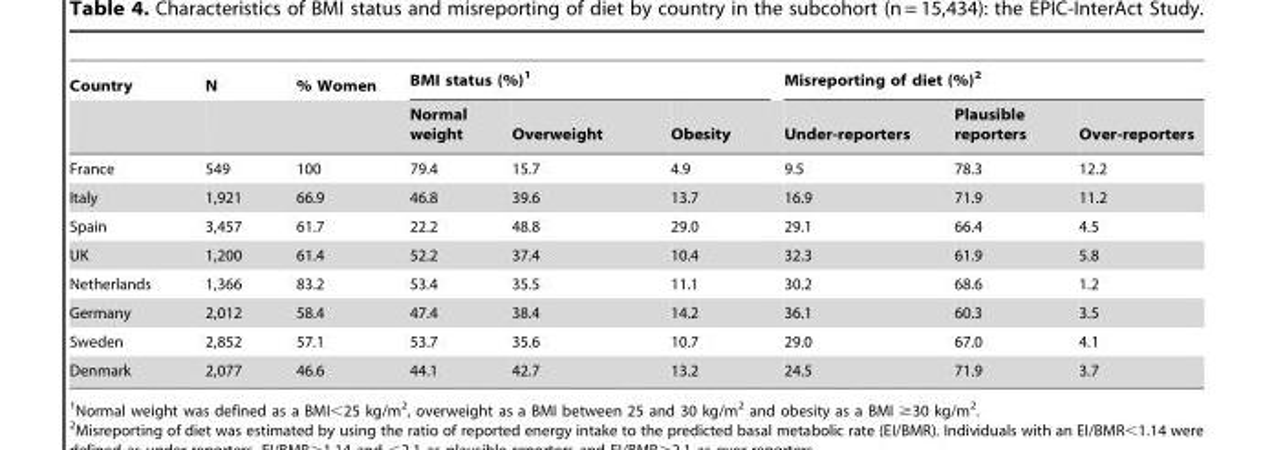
<table><thead><tr><td rowspan="2">Country</td><td rowspan="2">N</td><td rowspan="2">% Women</td><td colspan="3">BMI status (%)<sup>1</sup></td><td colspan="3">Misreporting of diet (%)<sup>2</sup></td></tr><tr><td>Normal weight</td><td>Overweight</td><td>Obesity</td><td>Under-reporters</td><td>Plausible reporters</td><td>Over-reporters</td></tr></thead><tbody><tr><td>France</td><td>549</td><td>100</td><td>79.4</td><td>15.7</td><td>4.9</td><td>9.5</td><td>78.3</td><td>12.2</td></tr><tr><td>Italy</td><td>1,921</td><td>66.9</td><td>46.8</td><td>39.6</td><td>13.7</td><td>16.9</td><td>71.9</td><td>11.2</td></tr><tr><td>Spain</td><td>3,457</td><td>61.7</td><td>22.2</td><td>48.8</td><td>29.0</td><td>29.1</td><td>66.4</td><td>4.5</td></tr><tr><td>UK</td><td>1,200</td><td>61.4</td><td>52.2</td><td>37.4</td><td>10.4</td><td>32.3</td><td>61.9</td><td>5.8</td></tr><tr><td>Netherlands</td><td>1,366</td><td>83.2</td><td>53.4</td><td>35.5</td><td>11.1</td><td>30.2</td><td>68.6</td><td>1.2</td></tr><tr><td>Germany</td><td>2,012</td><td>58.4</td><td>47.4</td><td>38.4</td><td>14.2</td><td>36.1</td><td>60.3</td><td>3.5</td></tr><tr><td>Sweden</td><td>2,852</td><td>57.1</td><td>53.7</td><td>35.6</td><td>10.7</td><td>29.0</td><td>67.0</td><td>4.1</td></tr><tr><td>Denmark</td><td>2,077</td><td>46.6</td><td>44.1</td><td>42.7</td><td>13.2</td><td>24.5</td><td>71.9</td><td>3.7</td></tr></tbody></table>